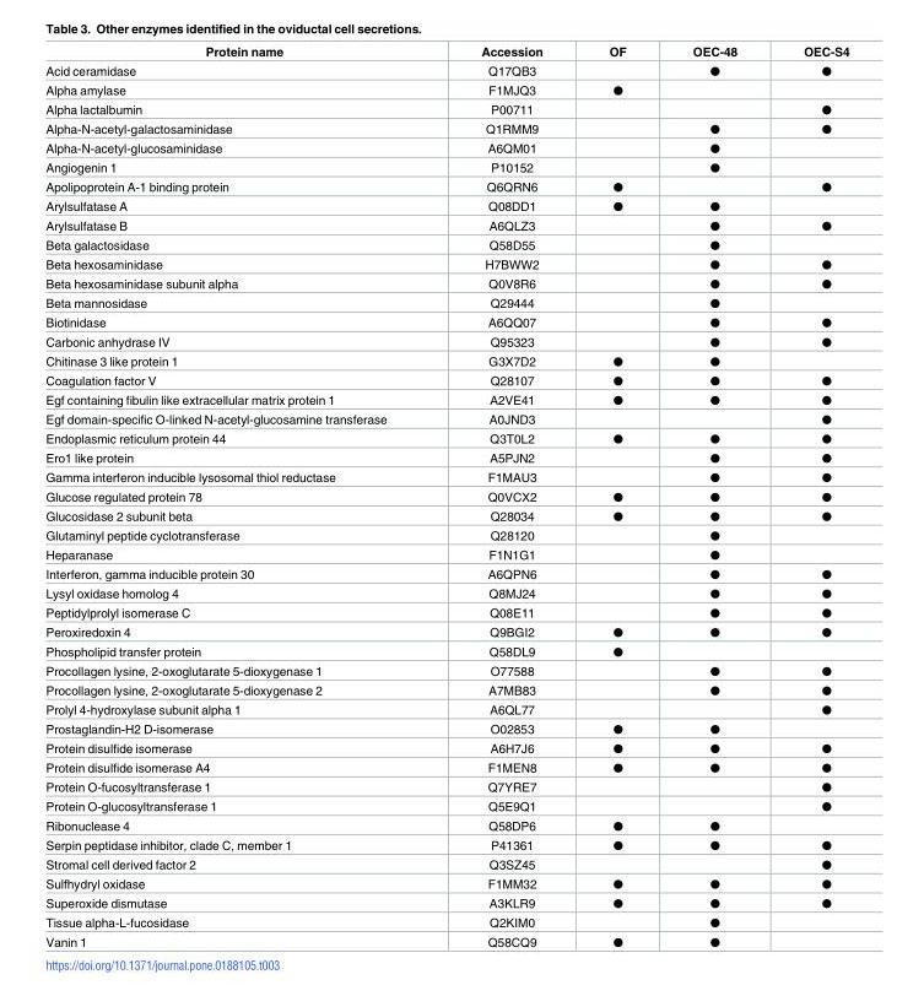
<table><thead><tr><td>Protein name</td><td>Accession</td><td>OF</td><td>OEC-48</td><td>OEC-S4</td></tr></thead><tbody><tr><td>Acid ceramidase</td><td>Q17QB3</td><td></td><td>●</td><td>●</td></tr><tr><td>Alpha amylase</td><td>F1MJQ3</td><td>●</td><td></td><td></td></tr><tr><td>Alpha lactalbumin</td><td>P00711</td><td></td><td></td><td>●</td></tr><tr><td>Alpha-N-acetyl-galactosaminidase</td><td>Q1RMM9</td><td></td><td>●</td><td>●</td></tr><tr><td>Alpha-N-acetyl-glucosaminidase</td><td>A6QM01</td><td></td><td>●</td><td></td></tr><tr><td>Angiogenin 1</td><td>P10152</td><td></td><td>●</td><td></td></tr><tr><td>Apolipoprotein A-1 binding protein</td><td>Q6QRN6</td><td>●</td><td></td><td>●</td></tr><tr><td>Arylsulfatase A</td><td>Q08DD1</td><td>●</td><td>●</td><td></td></tr><tr><td>Arylsulfatase B</td><td>A6QLZ3</td><td></td><td>●</td><td>●</td></tr><tr><td>Beta galactosidase</td><td>Q58D55</td><td></td><td>●</td><td></td></tr><tr><td>Beta hexosaminidase</td><td>H7BWW2</td><td></td><td>●</td><td>●</td></tr><tr><td>Beta hexosaminidase subunit alpha</td><td>Q0V8R6</td><td></td><td>●</td><td>●</td></tr><tr><td>Beta mannosidase</td><td>Q29444</td><td></td><td>●</td><td></td></tr><tr><td>Biotinidase</td><td>A6QQ07</td><td></td><td>●</td><td>●</td></tr><tr><td>Carbonic anhydrase IV</td><td>Q95323</td><td></td><td>●</td><td>●</td></tr><tr><td>Chitinase 3 like protein 1</td><td>G3X7D2</td><td>●</td><td>●</td><td></td></tr><tr><td>Coagulation factor V</td><td>Q28107</td><td>●</td><td>●</td><td>●</td></tr><tr><td>Egf containing fibulin like extracellular matrix protein 1</td><td>A2VE41</td><td>●</td><td>●</td><td>●</td></tr><tr><td>Egf domain-specific O-linked N-acetyl-glucosamine transferase</td><td>A0JND3</td><td></td><td></td><td>●</td></tr><tr><td>Endoplasmic reticulum protein 44</td><td>Q3T0L2</td><td>●</td><td>●</td><td>●</td></tr><tr><td>Ero1 like protein</td><td>A5PJN2</td><td></td><td>●</td><td>●</td></tr><tr><td>Gamma interferon inducible lysosomal thiol reductase</td><td>F1MAU3</td><td></td><td>●</td><td>●</td></tr><tr><td>Glucose regulated protein 78</td><td>Q0VCX2</td><td>●</td><td>●</td><td>●</td></tr><tr><td>Glucosidase 2 subunit beta</td><td>Q28034</td><td>●</td><td>●</td><td>●</td></tr><tr><td>Glutaminyl peptide cyclotransferase</td><td>Q28120</td><td></td><td>●</td><td></td></tr><tr><td>Heparanase</td><td>F1N1G1</td><td></td><td>●</td><td></td></tr><tr><td>Interferon, gamma inducible protein 30</td><td>A6QPN6</td><td></td><td>●</td><td>●</td></tr><tr><td>Lysyl oxidase homolog 4</td><td>Q8MJ24</td><td></td><td>●</td><td>●</td></tr><tr><td>Peptidylprolyl isomerase C</td><td>Q08E11</td><td></td><td>●</td><td>●</td></tr><tr><td>Peroxiredoxin 4</td><td>Q9BGI2</td><td>●</td><td>●</td><td>●</td></tr><tr><td>Phospholipid transfer protein</td><td>Q58DL9</td><td>●</td><td></td><td></td></tr><tr><td>Procollagen lysine, 2-oxoglutarate 5-dioxygenase 1</td><td>O77588</td><td></td><td>●</td><td>●</td></tr><tr><td>Procollagen lysine, 2-oxoglutarate 5-dioxygenase 2</td><td>A7MB83</td><td></td><td>●</td><td>●</td></tr><tr><td>Prolyl 4-hydroxylase subunit alpha 1</td><td>A6QL77</td><td></td><td></td><td>●</td></tr><tr><td>Prostaglandin-H2 D-isomerase</td><td>O02853</td><td>●</td><td>●</td><td></td></tr><tr><td>Protein disulfide isomerase</td><td>A6H7J6</td><td>●</td><td>●</td><td>●</td></tr><tr><td>Protein disulfide isomerase A4</td><td>F1MEN8</td><td>●</td><td>●</td><td>●</td></tr><tr><td>Protein O-fucosyltransferase 1</td><td>Q7YRE7</td><td></td><td></td><td>●</td></tr><tr><td>Protein O-glucosyltransferase 1</td><td>Q5E9Q1</td><td></td><td></td><td>●</td></tr><tr><td>Ribonuclease 4</td><td>Q58DP6</td><td>●</td><td>●</td><td></td></tr><tr><td>Serpin peptidase inhibitor, clade C, member 1</td><td>P41361</td><td>●</td><td>●</td><td>●</td></tr><tr><td>Stromal cell derived factor 2</td><td>Q3SZ45</td><td></td><td></td><td>●</td></tr><tr><td>Sulfhydryl oxidase</td><td>F1MM32</td><td>●</td><td>●</td><td>●</td></tr><tr><td>Superoxide dismutase</td><td>A3KLR9</td><td>●</td><td>●</td><td>●</td></tr><tr><td>Tissue alpha-L-fucosidase</td><td>Q2KIM0</td><td></td><td>●</td><td></td></tr><tr><td>Vanin 1</td><td>Q58CQ9</td><td>●</td><td>●</td><td></td></tr></tbody></table>